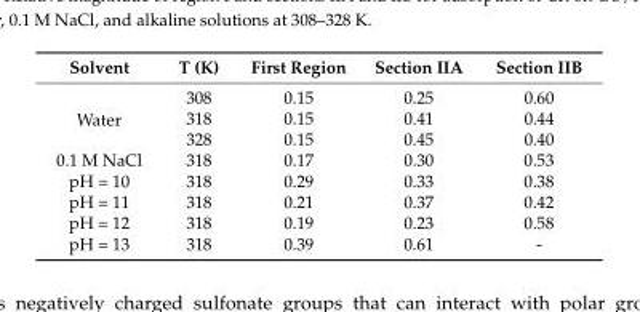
<table><thead><tr><td>Solvent</td><td>T (K)</td><td>First Region</td><td>Section IIA</td><td>Section IIB</td></tr></thead><tbody><tr><td rowspan="3">Water</td><td>308</td><td>0.15</td><td>0.25</td><td>0.60</td></tr><tr><td>318</td><td>0.15</td><td>0.41</td><td>0.44</td></tr><tr><td>328</td><td>0.15</td><td>0.45</td><td>0.40</td></tr><tr><td>0.1 M NaCl</td><td>318</td><td>0.17</td><td>0.30</td><td>0.53</td></tr><tr><td>pH = 10</td><td>318</td><td>0.29</td><td>0.33</td><td>0.38</td></tr><tr><td>pH = 11</td><td>318</td><td>0.21</td><td>0.37</td><td>0.42</td></tr><tr><td>pH = 12</td><td>318</td><td>0.19</td><td>0.23</td><td>0.58</td></tr><tr><td>pH = 13</td><td>318</td><td>0.39</td><td>0.61</td><td>-</td></tr></tbody></table>